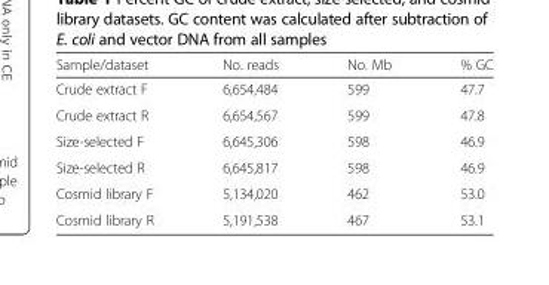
<table><thead><tr><td>Sample/dataset</td><td>No. reads</td><td>No. Mb</td><td>% GC</td></tr></thead><tbody><tr><td>Crude extract F</td><td>6,654,484</td><td>599</td><td>47.7</td></tr><tr><td>Crude extract R</td><td>6,654,567</td><td>599</td><td>47.8</td></tr><tr><td>Size-selected F</td><td>6,645,306</td><td>598</td><td>46.9</td></tr><tr><td>Size-selected R</td><td>6,645,817</td><td>598</td><td>46.9</td></tr><tr><td>Cosmid library F</td><td>5,134,020</td><td>462</td><td>53.0</td></tr><tr><td>Cosmid library R</td><td>5,191,538</td><td>467</td><td>53.1</td></tr></tbody></table>